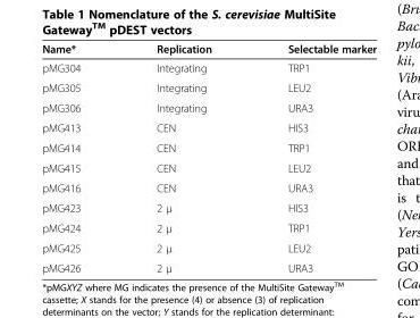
<table><thead><tr><td>Name*</td><td>Replication</td><td>Selectable marker</td></tr></thead><tbody><tr><td>pMG304</td><td>Integrating</td><td>TRP1</td></tr><tr><td>pMG305</td><td>Integrating</td><td>LEU2</td></tr><tr><td>pMG306</td><td>Integrating</td><td>URA3</td></tr><tr><td>pMG413</td><td>CEN</td><td>HIS3</td></tr><tr><td>pMG414</td><td>CEN</td><td>TRP1</td></tr><tr><td>pMG415</td><td>CEN</td><td>LEU2</td></tr><tr><td>pMG416</td><td>CEN</td><td>URA3</td></tr><tr><td>pMG423</td><td>2 μ</td><td>HIS3</td></tr><tr><td>pMG424</td><td>2 μ</td><td>TRP1</td></tr><tr><td>pMG425</td><td>2 μ</td><td>LEU2</td></tr><tr><td>pMG426</td><td>2 μ</td><td>URA3</td></tr></tbody></table>